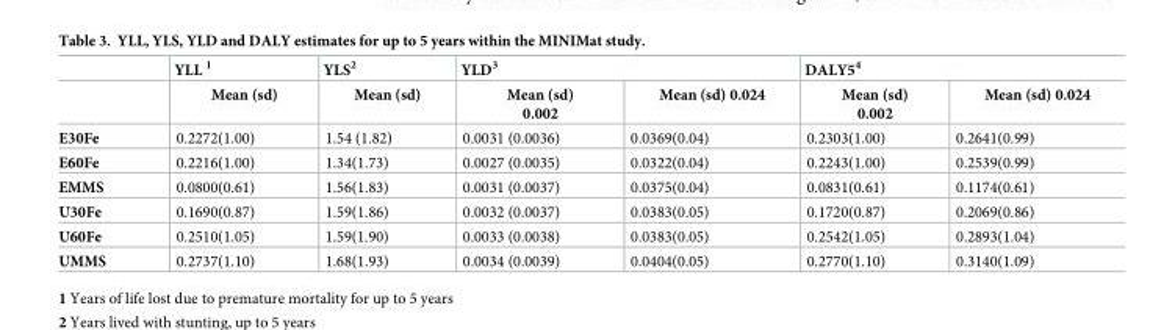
<table><thead><tr><td rowspan="2"></td><td rowspan="2">YLL <sup>1</sup> Mean (sd)</td><td rowspan="2">YLS<sup>2</sup> Mean (sd)</td><td colspan="2">YLD<sup>3</sup></td><td colspan="2">DALY5<sup>4</sup></td></tr><tr><td>Mean (sd) 0.002</td><td>Mean (sd) 0.024</td><td>Mean (sd) 0.002</td><td>Mean (sd) 0.024</td></tr></thead><tbody><tr><td>E30Fe</td><td>0.2272(1.00)</td><td>1.54 (1.82)</td><td>0.0031 (0.0036)</td><td>0.0369(0.04)</td><td>0.2303(1.00)</td><td>0.2641(0.99)</td></tr><tr><td>E60Fe</td><td>0.2216(1.00)</td><td>1.34(1.73)</td><td>0.0027 (0.0035)</td><td>0.0322(0.04)</td><td>0.2243(1.00)</td><td>0.2539(0.99)</td></tr><tr><td>EMMS</td><td>0.0800(0.61)</td><td>1.56(1.83)</td><td>0.0031 (0.0037)</td><td>0.0375(0.04)</td><td>0.0831(0.61)</td><td>0.1174(0.61)</td></tr><tr><td>U30Fe</td><td>0.1690(0.87)</td><td>1.59(1.86)</td><td>0.0032 (0.0037)</td><td>0.0383(0.05)</td><td>0.1720(0.87)</td><td>0.2069(0.86)</td></tr><tr><td>U60Fe</td><td>0.2510(1.05)</td><td>1.59(1.90)</td><td>0.0033 (0.0038)</td><td>0.0383(0.05)</td><td>0.2542(1.05)</td><td>0.2893(1.04)</td></tr><tr><td>UMMS</td><td>0.2737(1.10)</td><td>1.68(1.93)</td><td>0.0034 (0.0039)</td><td>0.0404(0.05)</td><td>0.2770(1.10)</td><td>0.3140(1.09)</td></tr></tbody></table>